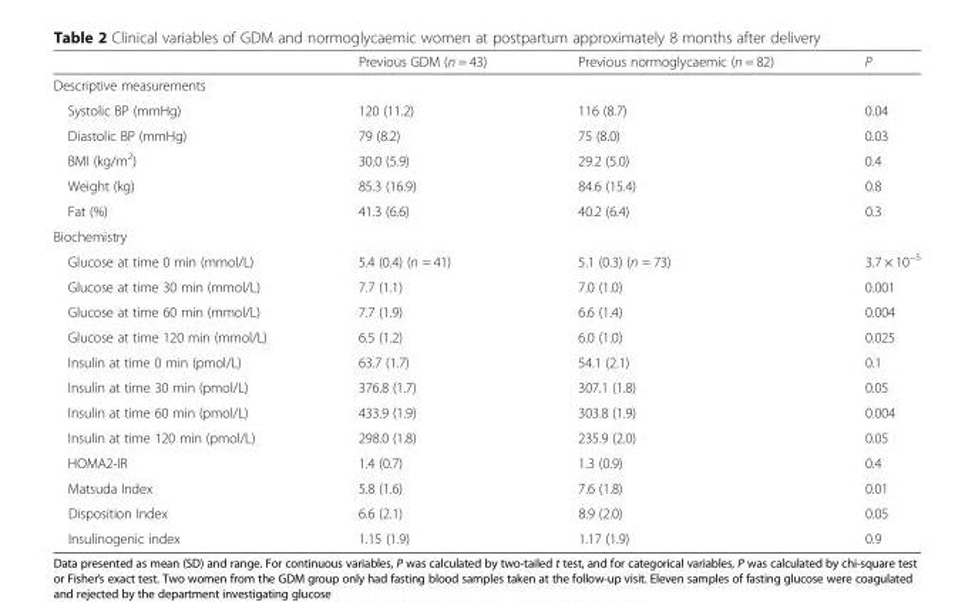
<table><thead><tr><td></td><td>Previous GDM (n = 43)</td><td>Previous normoglycaemic (n = 82)</td><td>P</td></tr></thead><tbody><tr><td colspan="4">Descriptive measurements</td></tr><tr><td>Systolic BP (mmHg)</td><td>120 (11.2)</td><td>116 (8.7)</td><td>0.04</td></tr><tr><td>Diastolic BP (mmHg)</td><td>79 (8.2)</td><td>75 (8.0)</td><td>0.03</td></tr><tr><td>BMI (kg/m<sup>2</sup>)</td><td>30.0 (5.9)</td><td>29.2 (5.0)</td><td>0.4</td></tr><tr><td>Weight (kg)</td><td>85.3 (16.9)</td><td>84.6 (15.4)</td><td>0.8</td></tr><tr><td>Fat (%)</td><td>41.3 (6.6)</td><td>40.2 (6.4)</td><td>0.3</td></tr><tr><td colspan="4">Biochemistry</td></tr><tr><td>Glucose at time 0 min (mmol/L)</td><td>5.4 (0.4) (n = 41)</td><td>5.1 (0.3) (n = 73)</td><td>3.7 × 10<sup>−5</sup></td></tr><tr><td>Glucose at time 30 min (mmol/L)</td><td>7.7 (1.1)</td><td>7.0 (1.0)</td><td>0.001</td></tr><tr><td>Glucose at time 60 min (mmol/L)</td><td>7.7 (1.9)</td><td>6.6 (1.4)</td><td>0.004</td></tr><tr><td>Glucose at time 120 min (mmol/L)</td><td>6.5 (1.2)</td><td>6.0 (1.0)</td><td>0.025</td></tr><tr><td>Insulin at time 0 min (pmol/L)</td><td>63.7 (1.7)</td><td>54.1 (2.1)</td><td>0.1</td></tr><tr><td>Insulin at time 30 min (pmol/L)</td><td>376.8 (1.7)</td><td>307.1 (1.8)</td><td>0.05</td></tr><tr><td>Insulin at time 60 min (pmol/L)</td><td>433.9 (1.9)</td><td>303.8 (1.9)</td><td>0.004</td></tr><tr><td>Insulin at time 120 min (pmol/L)</td><td>298.0 (1.8)</td><td>235.9 (2.0)</td><td>0.05</td></tr><tr><td>HOMA2-IR</td><td>1.4 (0.7)</td><td>1.3 (0.9)</td><td>0.4</td></tr><tr><td>Matsuda Index</td><td>5.8 (1.6)</td><td>7.6 (1.8)</td><td>0.01</td></tr><tr><td>Disposition Index</td><td>6.6 (2.1)</td><td>8.9 (2.0)</td><td>0.05</td></tr><tr><td>Insulinogenic index</td><td>1.15 (1.9)</td><td>1.17 (1.9)</td><td>0.9</td></tr></tbody></table>